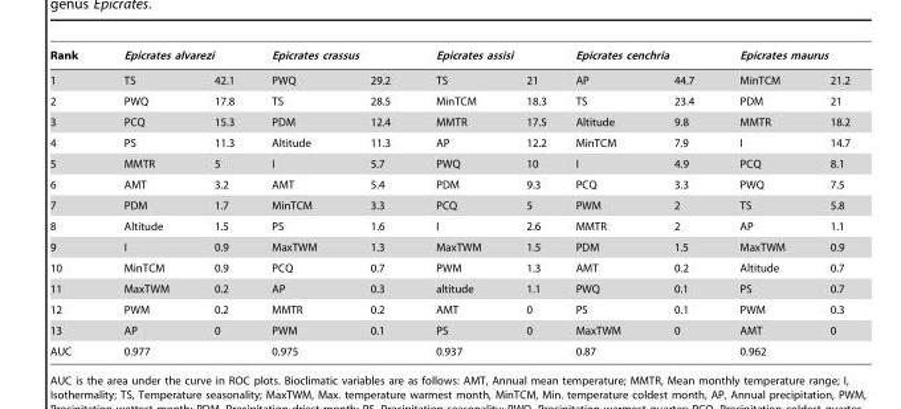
<table><thead><tr><td rowspan="2">Rank 1</td><td colspan="2">Epicrates alvarezi</td><td colspan="2">Epicrates crassus</td><td colspan="2">Epicrates assisi</td><td colspan="2">Epicrates cenchria</td><td colspan="2">Epicrates maurus</td></tr><tr><td>TS</td><td>42.1</td><td>PWQ</td><td>29.2</td><td>TS</td><td>21</td><td>AP</td><td>44.7</td><td>MinTCM</td><td>21.2</td></tr></thead><tbody><tr><td>2</td><td>PWQ</td><td>17.8</td><td>TS</td><td>28.5</td><td>MinTCM</td><td>18.3</td><td>TS</td><td>23.4</td><td>PDM</td><td>21</td></tr><tr><td>3</td><td>PCQ</td><td>15.3</td><td>PDM</td><td>12.4</td><td>MMTR</td><td>17.5</td><td>Altitude</td><td>9.8</td><td>MMTR</td><td>18.2</td></tr><tr><td>4</td><td>PS</td><td>11.3</td><td>Altitude</td><td>11.3</td><td>AP</td><td>12.2</td><td>MinTCM</td><td>7.9</td><td>I</td><td>14.7</td></tr><tr><td>5</td><td>MMTR</td><td>5</td><td>I</td><td>5.7</td><td>PWQ</td><td>10</td><td>I</td><td>4.9</td><td>PCQ</td><td>8.1</td></tr><tr><td>6</td><td>AMT</td><td>3.2</td><td>AMT</td><td>5.4</td><td>PDM</td><td>9.3</td><td>PCQ</td><td>3.3</td><td>PWQ</td><td>7.5</td></tr><tr><td>7</td><td>PDM</td><td>1.7</td><td>MinTCM</td><td>3.3</td><td>PCQ</td><td>5</td><td>PWM</td><td>2</td><td>TS</td><td>5.8</td></tr><tr><td>8</td><td>Altitude</td><td>1.5</td><td>PS</td><td>1.6</td><td>I</td><td>2.6</td><td>MMTR</td><td>2</td><td>AP</td><td>1.1</td></tr><tr><td>9</td><td>I</td><td>0.9</td><td>MaxTWM</td><td>1.3</td><td>MaxTWM</td><td>1.5</td><td>PDM</td><td>1.5</td><td>MaxTWM</td><td>0.9</td></tr><tr><td>10</td><td>MinTCM</td><td>0.9</td><td>PCQ</td><td>0.7</td><td>PWM</td><td>1.3</td><td>AMT</td><td>0.2</td><td>Altitude</td><td>0.7</td></tr><tr><td>11</td><td>MaxTWM</td><td>0.2</td><td>AP</td><td>0.3</td><td>altitude</td><td>1.1</td><td>PWQ</td><td>0.1</td><td>PS</td><td>0.7</td></tr><tr><td>12</td><td>PWM</td><td>0.2</td><td>MMTR</td><td>0.2</td><td>AMT</td><td>0</td><td>PS</td><td>0.1</td><td>PWM</td><td>0.3</td></tr><tr><td>13</td><td>AP</td><td>0</td><td>PWM</td><td>0.1</td><td>PS</td><td>0</td><td>MaxTWM</td><td>0</td><td>AMT</td><td>0</td></tr><tr><td>AUC</td><td colspan="2">0.977</td><td colspan="2">0.975</td><td colspan="2">0.937</td><td colspan="2">0.87</td><td colspan="2">0.962</td></tr></tbody></table>